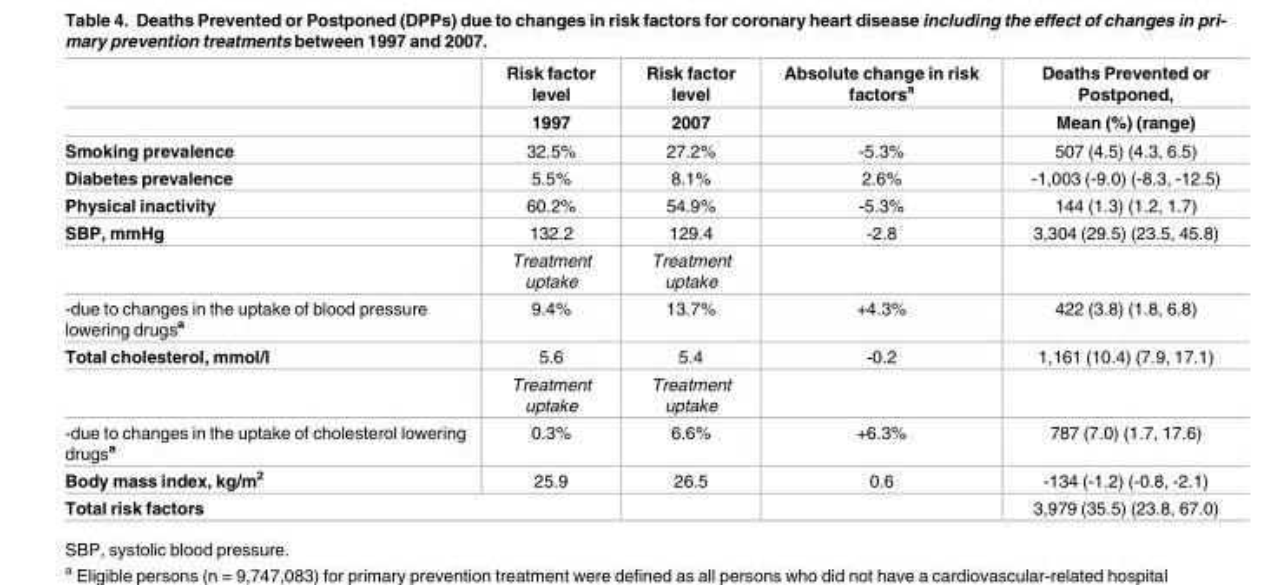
<table><thead><tr><td rowspan="2"></td><td rowspan="2">Risk factor level 1997</td><td rowspan="2">Risk factor level 2007</td><td rowspan="2">Absolute change in risk factors<sup>a</sup></td><td rowspan="2">Deaths Prevented or Postponed, Mean (%) (range)</td></tr><tr></tr></thead><tbody><tr><td>Smoking prevalence</td><td>32.5%</td><td>27.2%</td><td>-5.3%</td><td>507 (4.5) (4.3, 6.5)</td></tr><tr><td>Diabetes prevalence</td><td>5.5%</td><td>8.1%</td><td>2.6%</td><td>-1,003 (-9.0) (-8.3, -12.5)</td></tr><tr><td>Physical inactivity</td><td>60.2%</td><td>54.9%</td><td>-5.3%</td><td>144 (1.3) (1.2, 1.7)</td></tr><tr><td rowspan="2">SBP, mmHg</td><td>132.2</td><td>129.4</td><td>-2.8</td><td>3,304 (29.5) (23.5, 45.8)</td></tr><tr><td>Treatment uptake</td><td>Treatment uptake</td><td></td><td></td></tr><tr><td>-due to changes in the uptake of blood pressure lowering drugs<sup>a</sup></td><td>9.4%</td><td>13.7%</td><td>+4.3%</td><td>422 (3.8) (1.8, 6.8)</td></tr><tr><td rowspan="2">Total cholesterol, mmol/l</td><td>5.6</td><td>5.4</td><td>-0.2</td><td>1,161 (10.4) (7.9, 17.1)</td></tr><tr><td>Treatment uptake</td><td>Treatment uptake</td><td></td><td></td></tr><tr><td>-due to changes in the uptake of cholesterol lowering drugs<sup>a</sup></td><td>0.3%</td><td>6.6%</td><td>+6.3%</td><td>787 (7.0) (1.7, 17.6)</td></tr><tr><td>Body mass index, kg/m<sup>2</sup></td><td>25.9</td><td>26.5</td><td>0.6</td><td>-134 (-1.2) (-0.8, -2.1)</td></tr><tr><td colspan="2">Total risk factors</td><td></td><td></td><td>3,979 (35.5) (23.8, 67.0)</td></tr></tbody></table>